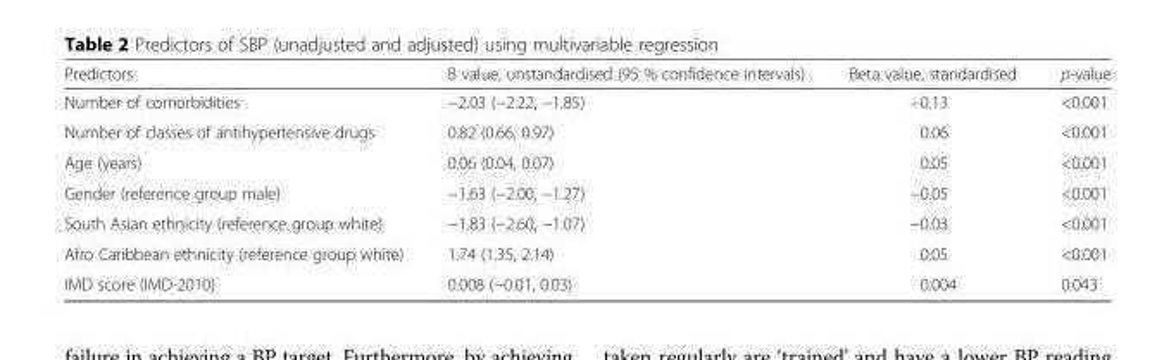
<table><thead><tr><td>Predictors</td><td>B value, unstandardised (95 % confidence intervals)</td><td>Beta value, standardised</td><td>p-value</td></tr></thead><tbody><tr><td>Number of comorbidities</td><td>−2.03 (−2.22, −1.85)</td><td>−0.13</td><td>&lt;0.001</td></tr><tr><td>Number of classes of antihypertensive drugs</td><td>0.82 (0.66, 0.97)</td><td>0.06</td><td>&lt;0.001</td></tr><tr><td>Age (years)</td><td>0.06 (0.04, 0.07)</td><td>0.05</td><td>&lt;0.001</td></tr><tr><td>Gender (reference group male)</td><td>−1.63 (−2.00, −1.27)</td><td>−0.05</td><td>&lt;0.001</td></tr><tr><td>South Asian ethnicity (reference group white)</td><td>−1.83 (−2.60, −1.07)</td><td>−0.03</td><td>&lt;0.001</td></tr><tr><td>Afro Caribbean ethnicity (reference group white)</td><td>1.74 (1.35, 2.14)</td><td>0.05</td><td>&lt;0.001</td></tr><tr><td>IMD score (IMD-2010)</td><td>0.008 (−0.01, 0.03)</td><td>0.004</td><td>0.043</td></tr></tbody></table>